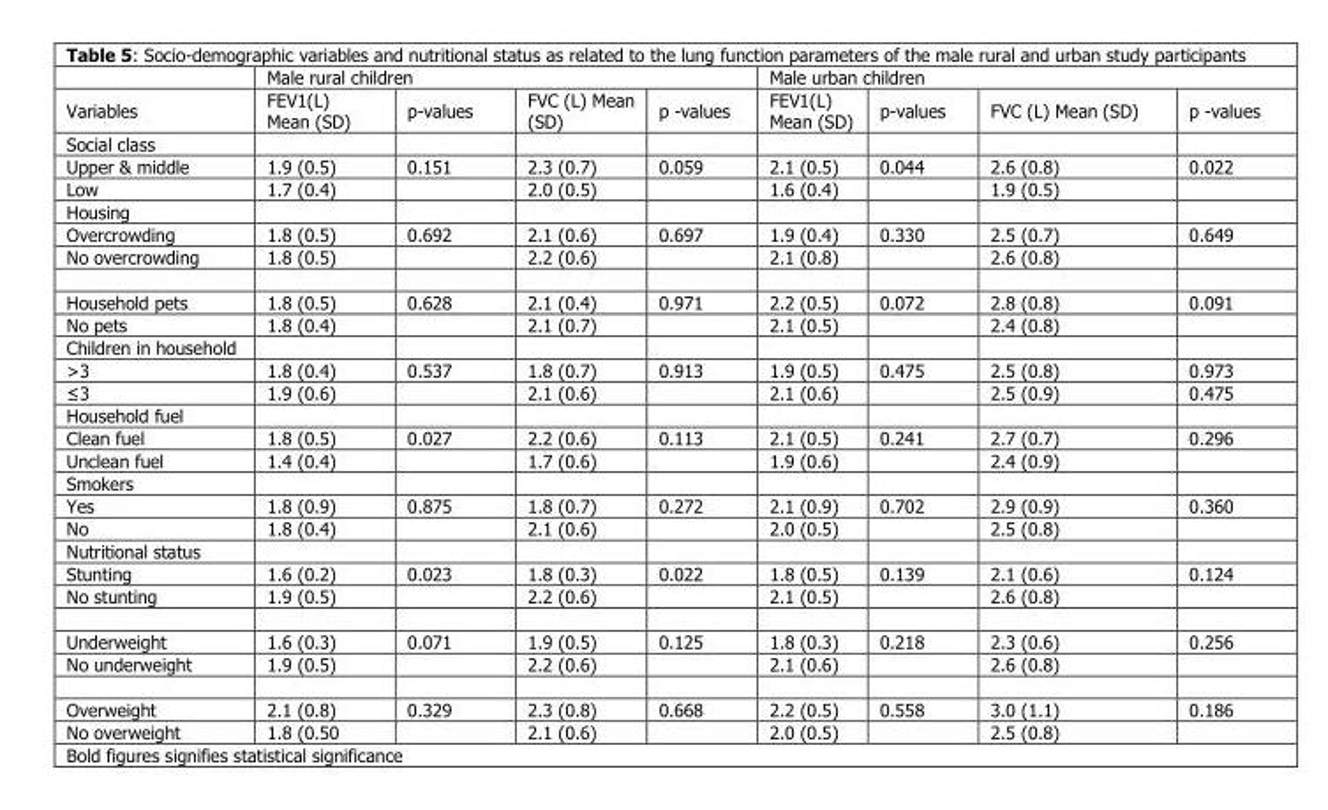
<table><thead><tr><td rowspan="2">Variables</td><td colspan="4">Male rural children</td><td colspan="4">Male urban children</td></tr><tr><td>FEV1(L) Mean (SD)</td><td>p-values</td><td>FVC (L) Mean (SD)</td><td>p -values</td><td>FEV1(L) Mean (SD)</td><td>p-values</td><td>FVC (L) Mean (SD)</td><td>p -values</td></tr></thead><tbody><tr><td colspan="9">Social class</td></tr><tr><td>Upper &amp; middle</td><td>1.9 (0.5)</td><td>0.151</td><td>2.3 (0.7)</td><td>0.059</td><td>2.1 (0.5)</td><td>0.044</td><td>2.6 (0.8)</td><td>0.022</td></tr><tr><td>Low</td><td>1.7 (0.4)</td><td></td><td>2.0 (0.5)</td><td></td><td>1.6 (0.4)</td><td></td><td>1.9 (0.5)</td><td></td></tr><tr><td colspan="9">Housing</td></tr><tr><td>Overcrowding</td><td>1.8 (0.5)</td><td>0.692</td><td>2.1 (0.6)</td><td>0.697</td><td>1.9 (0.4)</td><td>0.330</td><td>2.5 (0.7)</td><td>0.649</td></tr><tr><td>No overcrowding</td><td>1.8 (0.5)</td><td></td><td>2.2 (0.6)</td><td></td><td>2.1 (0.8)</td><td></td><td>2.6 (0.8)</td><td></td></tr><tr><td>Household pets</td><td>1.8 (0.5)</td><td>0.628</td><td>2.1 (0.4)</td><td>0.971</td><td>2.2 (0.5)</td><td>0.072</td><td>2.8 (0.8)</td><td>0.091</td></tr><tr><td>No pets</td><td>1.8 (0.4)</td><td></td><td>2.1 (0.7)</td><td></td><td>2.1 (0.5)</td><td></td><td>2.4 (0.8)</td><td></td></tr><tr><td colspan="9">Children in household</td></tr><tr><td>&gt;3</td><td>1.8 (0.4)</td><td>0.537</td><td>1.8 (0.7)</td><td>0.913</td><td>1.9 (0.5)</td><td>0.475</td><td>2.5 (0.8)</td><td>0.973</td></tr><tr><td>≤3</td><td>1.9 (0.6)</td><td></td><td>2.1 (0.6)</td><td></td><td>2.1 (0.6)</td><td></td><td>2.5 (0.9)</td><td>0.475</td></tr><tr><td colspan="9">Household fuel</td></tr><tr><td>Clean fuel</td><td>1.8 (0.5)</td><td>0.027</td><td>2.2 (0.6)</td><td>0.113</td><td>2.1 (0.5)</td><td>0.241</td><td>2.7 (0.7)</td><td>0.296</td></tr><tr><td>Unclean fuel</td><td>1.4 (0.4)</td><td></td><td>1.7 (0.6)</td><td></td><td>1.9 (0.6)</td><td></td><td>2.4 (0.9)</td><td></td></tr><tr><td colspan="9">Smokers</td></tr><tr><td>Yes</td><td>1.8 (0.9)</td><td>0.875</td><td>1.8 (0.7)</td><td>0.272</td><td>2.1 (0.9)</td><td>0.702</td><td>2.9 (0.9)</td><td>0.360</td></tr><tr><td>No</td><td>1.8 (0.4)</td><td></td><td>2.1 (0.6)</td><td></td><td>2.0 (0.5)</td><td></td><td>2.5 (0.8)</td><td></td></tr><tr><td colspan="9">Nutritional status</td></tr><tr><td>Stunting</td><td>1.6 (0.2)</td><td>0.023</td><td>1.8 (0.3)</td><td>0.022</td><td>1.8 (0.5)</td><td>0.139</td><td>2.1 (0.6)</td><td>0.124</td></tr><tr><td>No stunting</td><td>1.9 (0.5)</td><td></td><td>2.2 (0.6)</td><td></td><td>2.1 (0.5)</td><td></td><td>2.6 (0.8)</td><td></td></tr><tr><td>Underweight</td><td>1.6 (0.3)</td><td>0.071</td><td>1.9 (0.5)</td><td>0.125</td><td>1.8 (0.3)</td><td>0.218</td><td>2.3 (0.6)</td><td>0.256</td></tr><tr><td>No underweight</td><td>1.9 (0.5)</td><td></td><td>2.2 (0.6)</td><td></td><td>2.1 (0.6)</td><td></td><td>2.6 (0.8)</td><td></td></tr><tr><td>Overweight</td><td>2.1 (0.8)</td><td>0.329</td><td>2.3 (0.8)</td><td>0.668</td><td>2.2 (0.5)</td><td>0.558</td><td>3.0 (1.1)</td><td>0.186</td></tr><tr><td>No overweight</td><td>1.8 (0.50</td><td></td><td>2.1 (0.6)</td><td></td><td>2.0 (0.5)</td><td></td><td>2.5 (0.8)</td><td></td></tr></tbody></table>